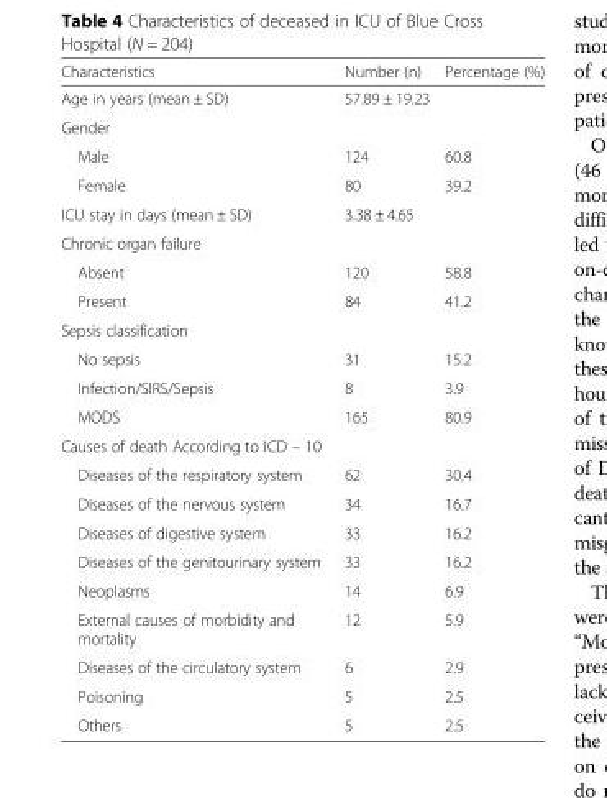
<table><thead><tr><td>Characteristics</td><td>Number (n)</td><td>Percentage (%)</td></tr></thead><tbody><tr><td>Age in years (mean ± SD)</td><td colspan="2">57.89 ± 19.23</td></tr><tr><td colspan="3">Gender</td></tr><tr><td>Male</td><td>124</td><td>60.8</td></tr><tr><td>Female</td><td>80</td><td>39.2</td></tr><tr><td>ICU stay in days (mean ± SD)</td><td colspan="2">3.38 ± 4.65</td></tr><tr><td colspan="3">Chronic organ failure</td></tr><tr><td>Absent</td><td>120</td><td>58.8</td></tr><tr><td>Present</td><td>84</td><td>41.2</td></tr><tr><td colspan="3">Sepsis classification</td></tr><tr><td>No sepsis</td><td>31</td><td>15.2</td></tr><tr><td>Infection/SIRS/Sepsis</td><td>8</td><td>3.9</td></tr><tr><td>MODS</td><td>165</td><td>80.9</td></tr><tr><td colspan="3">Causes of death According to ICD – 10</td></tr><tr><td>Diseases of the respiratory system</td><td>62</td><td>30.4</td></tr><tr><td>Diseases of the nervous system</td><td>34</td><td>16.7</td></tr><tr><td>Diseases of digestive system</td><td>33</td><td>16.2</td></tr><tr><td>Diseases of the genitourinary system</td><td>33</td><td>16.2</td></tr><tr><td>Neoplasms</td><td>14</td><td>6.9</td></tr><tr><td>External causes of morbidity and mortality</td><td>12</td><td>5.9</td></tr><tr><td>Diseases of the circulatory system</td><td>6</td><td>2.9</td></tr><tr><td>Poisoning</td><td>5</td><td>2.5</td></tr><tr><td>Others</td><td>5</td><td>2.5</td></tr></tbody></table>